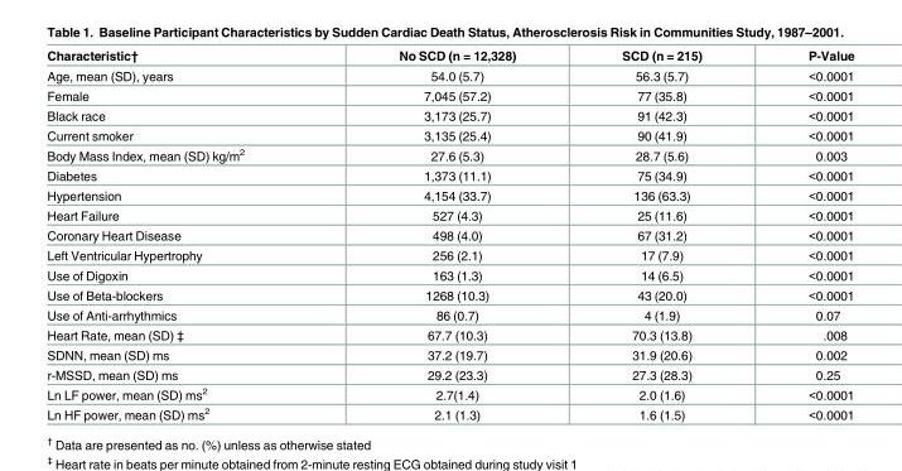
<table><thead><tr><td>Characteristic†</td><td>No SCD (n = 12,328)</td><td>SCD (n = 215)</td><td>P-Value</td></tr></thead><tbody><tr><td>Age, mean (SD), years</td><td>54.0 (5.7)</td><td>56.3 (5.7)</td><td>&lt;0.0001</td></tr><tr><td>Female</td><td>7,045 (57.2)</td><td>77 (35.8)</td><td>&lt;0.0001</td></tr><tr><td>Black race</td><td>3,173 (25.7)</td><td>91 (42.3)</td><td>&lt;0.0001</td></tr><tr><td>Current smoker</td><td>3,135 (25.4)</td><td>90 (41.9)</td><td>&lt;0.0001</td></tr><tr><td>Body Mass Index, mean (SD) kg/m<sup>2</sup></td><td>27.6 (5.3)</td><td>28.7 (5.6)</td><td>0.003</td></tr><tr><td>Diabetes</td><td>1,373 (11.1)</td><td>75 (34.9)</td><td>&lt;0.0001</td></tr><tr><td>Hypertension</td><td>4,154 (33.7)</td><td>136 (63.3)</td><td>&lt;0.0001</td></tr><tr><td>Heart Failure</td><td>527 (4.3)</td><td>25 (11.6)</td><td>&lt;0.0001</td></tr><tr><td>Coronary Heart Disease</td><td>498 (4.0)</td><td>67 (31.2)</td><td>&lt;0.0001</td></tr><tr><td>Left Ventricular Hypertrophy</td><td>256 (2.1)</td><td>17 (7.9)</td><td>&lt;0.0001</td></tr><tr><td>Use of Digoxin</td><td>163 (1.3)</td><td>14 (6.5)</td><td>&lt;0.0001</td></tr><tr><td>Use of Beta-blockers</td><td>1268 (10.3)</td><td>43 (20.0)</td><td>&lt;0.0001</td></tr><tr><td>Use of Anti-arrhythmics</td><td>86 (0.7)</td><td>4 (1.9)</td><td>0.07</td></tr><tr><td>Heart Rate, mean (SD) ‡</td><td>67.7 (10.3)</td><td>70.3 (13.8)</td><td>.008</td></tr><tr><td>SDNN, mean (SD) ms</td><td>37.2 (19.7)</td><td>31.9 (20.6)</td><td>0.002</td></tr><tr><td>r-MSSD, mean (SD) ms</td><td>29.2 (23.3)</td><td>27.3 (28.3)</td><td>0.25</td></tr><tr><td>Ln LF power, mean (SD) ms<sup>2</sup></td><td>2.7(1.4)</td><td>2.0 (1.6)</td><td>&lt;0.0001</td></tr><tr><td>Ln HF power, mean (SD) ms<sup>2</sup></td><td>2.1 (1.3)</td><td>1.6 (1.5)</td><td>&lt;0.0001</td></tr></tbody></table>